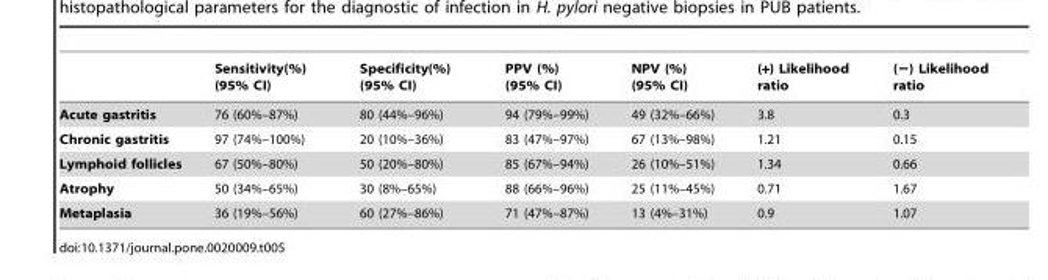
<table><thead><tr><td></td><td>Sensitivity(%) (95% CI)</td><td>Specificity(%) (95% CI)</td><td>PPV (%) (95% CI)</td><td>NPV (%) (95% CI)</td><td>(+) Likelihood ratio</td><td>(−) Likelihood ratio</td></tr></thead><tbody><tr><td>Acute gastritis</td><td>76 (60%–87%)</td><td>80 (44%–96%)</td><td>94 (79%–99%)</td><td>49 (32%–66%)</td><td>3.8</td><td>0.3</td></tr><tr><td>Chronic gastritis</td><td>97 (74%–100%)</td><td>20 (10%–36%)</td><td>83 (47%–97%)</td><td>67 (13%–98%)</td><td>1.21</td><td>0.15</td></tr><tr><td>Lymphoid follicles</td><td>67 (50%–80%)</td><td>50 (20%–80%)</td><td>85 (67%–94%)</td><td>26 (10%–51%)</td><td>1.34</td><td>0.66</td></tr><tr><td>Atrophy</td><td>50 (34%–65%)</td><td>30 (8%–65%)</td><td>88 (66%–96%)</td><td>25 (11%–45%)</td><td>0.71</td><td>1.67</td></tr><tr><td>Metaplasia</td><td>36 (19%–56%)</td><td>60 (27%–86%)</td><td>71 (47%–87%)</td><td>13 (4%–31%)</td><td>0.9</td><td>1.07</td></tr></tbody></table>